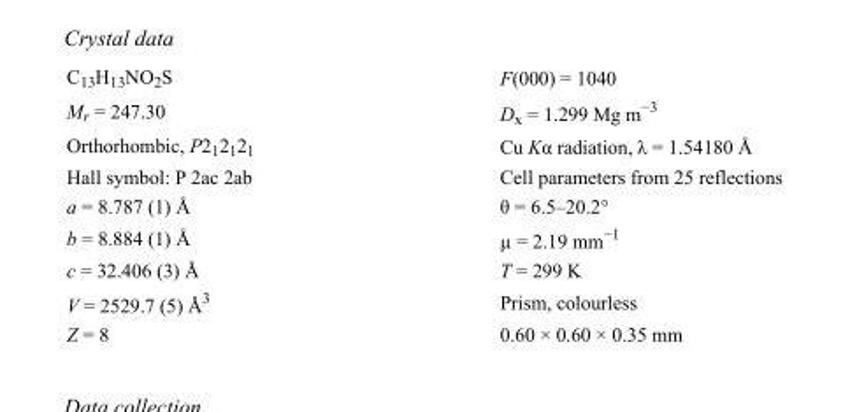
<table><tbody><tr><td>C<sub>13</sub>H<sub>13</sub>NO<sub>2</sub>S</td><td>F(000) = 1040</td></tr><tr><td>M<sub>r</sub> = 247.30</td><td>D<sub>x</sub> = 1.299 Mg m<sup>−3</sup></td></tr><tr><td>Orthorhombic, P2<sub>1</sub>2<sub>1</sub>2<sub>1</sub></td><td>Cu Kα radiation, λ = 1.54180 Å</td></tr><tr><td>Hall symbol: P 2ac 2ab</td><td>Cell parameters from 25 reflections</td></tr><tr><td>a = 8.787 (1) Å</td><td>θ = 6.5–20.2°</td></tr><tr><td>b = 8.884 (1) Å</td><td>µ = 2.19 mm<sup>−1</sup></td></tr><tr><td>c = 32.406 (3) Å</td><td>T = 299 K</td></tr><tr><td>V = 2529.7 (5) Å<sup>3</sup></td><td>Prism, colourless</td></tr><tr><td>Z = 8</td><td>0.60 × 0.60 × 0.35 mm</td></tr></tbody></table>